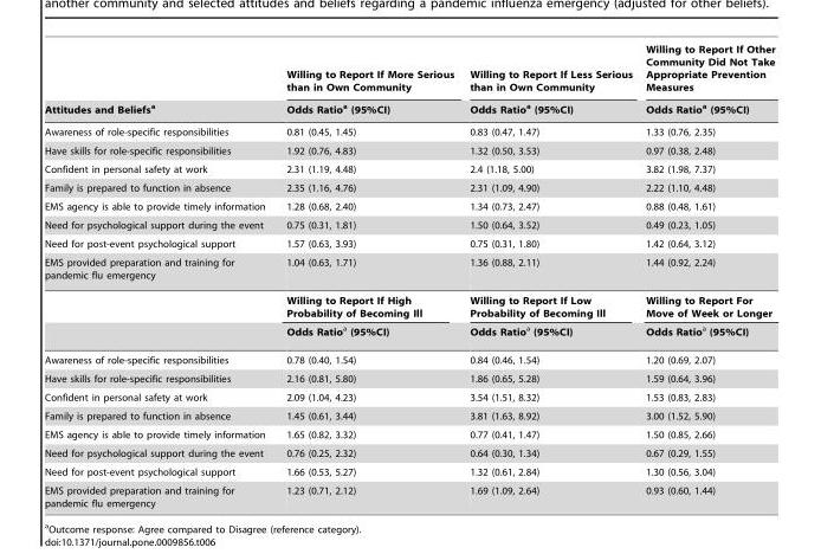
<table><thead><tr><td rowspan="2">Attitudes and Beliefs<sup>a</sup></td><td rowspan="2">Willing to Report If More Serious than in Own Community Odds Ratioa (95%CI)</td><td rowspan="2">Willing to Report If Less Serious than in Own Community Odds Ratioa (95%CI)</td><td rowspan="2">Willing to Report If Other Community Did Not Take Appropriate Prevention Measures Odds Ratioa (95%CI)</td></tr><tr></tr></thead><tbody><tr><td>Awareness of role-specific responsibilities</td><td>0.81 (0.45, 1.45)</td><td>0.83 (0.47, 1.47)</td><td>1.33 (0.76, 2.35)</td></tr><tr><td>Have skills for role-specific responsibilities</td><td>1.92 (0.76, 4.83)</td><td>1.32 (0.50, 3.53)</td><td>0.97 (0.38, 2.48)</td></tr><tr><td>Confident in personal safety at work</td><td>2.31 (1.19, 4.48)</td><td>2.4 (1.18, 5.00)</td><td>3.82 (1.98, 7.37)</td></tr><tr><td>Family is prepared to function in absence</td><td>2.35 (1.16, 4.76)</td><td>2.31 (1.09, 4.90)</td><td>2.22 (1.10, 4.48)</td></tr><tr><td>EMS agency is able to provide timely information</td><td>1.28 (0.68, 2.40)</td><td>1.34 (0.73, 2.47)</td><td>0.88 (0.48, 1.61)</td></tr><tr><td>Need for psychological support during the event</td><td>0.75 (0.31, 1.81)</td><td>1.50 (0.64, 3.52)</td><td>0.49 (0.23, 1.05)</td></tr><tr><td>Need for post-event psychological support</td><td>1.57 (0.63, 3.93)</td><td>0.75 (0.31, 1.80)</td><td>1.42 (0.64, 3.12)</td></tr><tr><td rowspan="3">EMS provided preparation and training for pandemic flu emergency</td><td>1.04 (0.63, 1.71)</td><td>1.36 (0.88, 2.11)</td><td>1.44 (0.92, 2.24)</td></tr><tr><td>Willing to Report If High Probability of Becoming Ill</td><td>Willing to Report If Low Probability of Becoming Ill</td><td>Willing to Report For Move of Week or Longer</td></tr><tr><td>Odds Ratioa (95%CI)</td><td>Odds Ratioa (95%CI)</td><td>Odds Ratioa (95%CI)</td></tr><tr><td>Awareness of role-specific responsibilities</td><td>0.78 (0.40, 1.54)</td><td>0.84 (0.46, 1.54)</td><td>1.20 (0.69, 2.07)</td></tr><tr><td>Have skills for role-specific responsibilities</td><td>2.16 (0.81, 5.80)</td><td>1.86 (0.65, 5.28)</td><td>1.59 (0.64, 3.96)</td></tr><tr><td>Confident in personal safety at work</td><td>2.09 (1.04, 4.23)</td><td>3.54 (1.51, 8.32)</td><td>1.53 (0.83, 2.83)</td></tr><tr><td>Family is prepared to function in absence</td><td>1.45 (0.61, 3.44)</td><td>3.81 (1.63, 8.92)</td><td>3.00 (1.52, 5.90)</td></tr><tr><td>EMS agency is able to provide timely information</td><td>1.65 (0.82, 3.32)</td><td>0.77 (0.41, 1.47)</td><td>1.50 (0.85, 2.66)</td></tr><tr><td>Need for psychological support during the event</td><td>0.76 (0.25, 2.32)</td><td>0.64 (0.30, 1.34)</td><td>0.67 (0.29, 1.55)</td></tr><tr><td>Need for post-event psychological support</td><td>1.66 (0.53, 5.27)</td><td>1.32 (0.61, 2.84)</td><td>1.30 (0.56, 3.04)</td></tr><tr><td>EMS provided preparation and training for pandemic flu emergency</td><td>1.23 (0.71, 2.12)</td><td>1.69 (1.09, 2.64)</td><td>0.93 (0.60, 1.44)</td></tr></tbody></table>